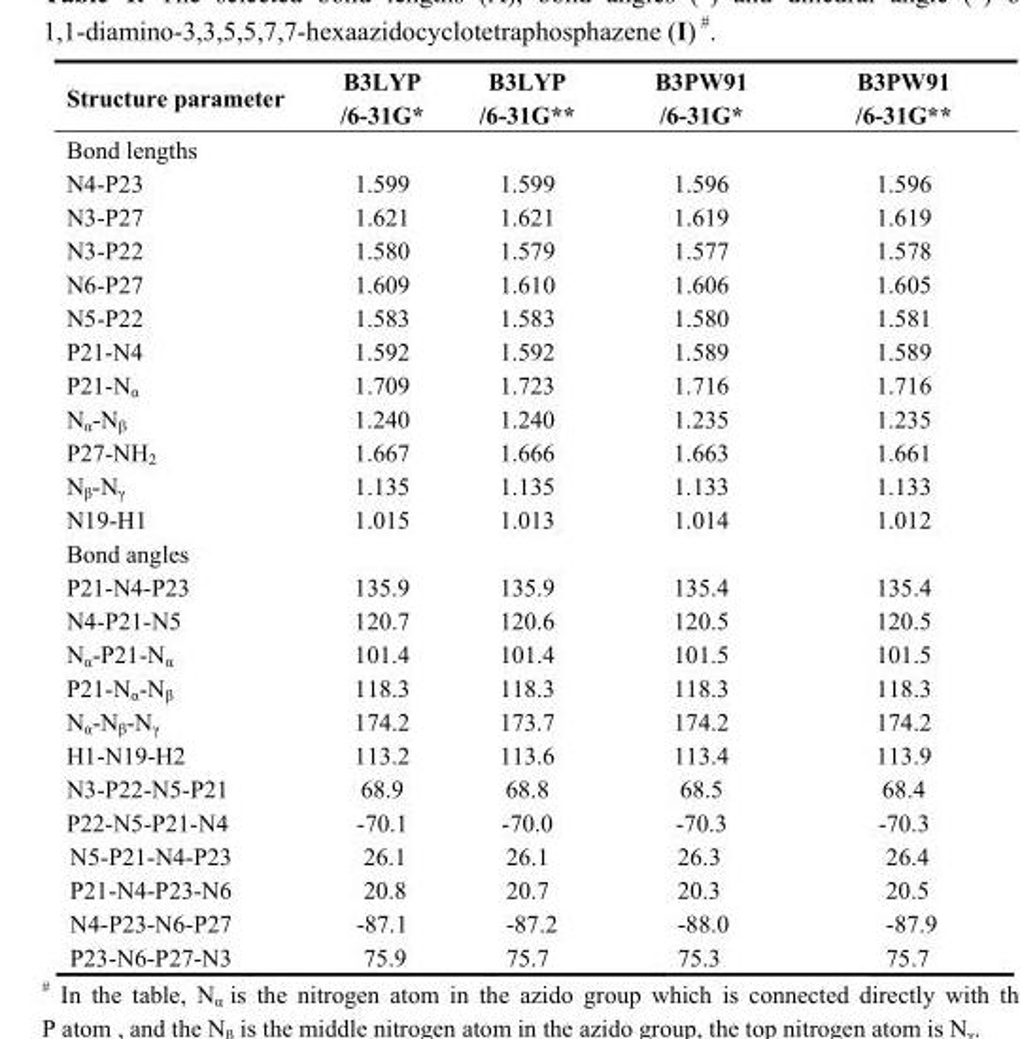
<table><thead><tr><td>Structure parameter</td><td>B3LYP /6-31G*</td><td>B3LYP /6-31G**</td><td>B3PW91 /6-31G*</td><td>B3PW91 /6-31G**</td></tr></thead><tbody><tr><td colspan="5">Bond lengths</td></tr><tr><td>N4-P23</td><td>1.599</td><td>1.599</td><td>1.596</td><td>1.596</td></tr><tr><td>N3-P27</td><td>1.621</td><td>1.621</td><td>1.619</td><td>1.619</td></tr><tr><td>N3-P22</td><td>1.580</td><td>1.579</td><td>1.577</td><td>1.578</td></tr><tr><td>N6-P27</td><td>1.609</td><td>1.610</td><td>1.606</td><td>1.605</td></tr><tr><td>N5-P22</td><td>1.583</td><td>1.583</td><td>1.580</td><td>1.581</td></tr><tr><td>P21-N4</td><td>1.592</td><td>1.592</td><td>1.589</td><td>1.589</td></tr><tr><td>P21-N<sub>α</sub></td><td>1.709</td><td>1.723</td><td>1.716</td><td>1.716</td></tr><tr><td>N<sub>α</sub>-N<sub>β</sub></td><td>1.240</td><td>1.240</td><td>1.235</td><td>1.235</td></tr><tr><td>P27-NH<sub>2</sub></td><td>1.667</td><td>1.666</td><td>1.663</td><td>1.661</td></tr><tr><td>N<sub>β</sub>-N<sub>γ</sub></td><td>1.135</td><td>1.135</td><td>1.133</td><td>1.133</td></tr><tr><td>N19-H1</td><td>1.015</td><td>1.013</td><td>1.014</td><td>1.012</td></tr><tr><td colspan="5">Bond angles</td></tr><tr><td>P21-N4-P23</td><td>135.9</td><td>135.9</td><td>135.4</td><td>135.4</td></tr><tr><td>N4-P21-N5</td><td>120.7</td><td>120.6</td><td>120.5</td><td>120.5</td></tr><tr><td>N<sub>α</sub>-P21-N<sub>α</sub></td><td>101.4</td><td>101.4</td><td>101.5</td><td>101.5</td></tr><tr><td>P21-N<sub>α</sub>-N<sub>β</sub></td><td>118.3</td><td>118.3</td><td>118.3</td><td>118.3</td></tr><tr><td>N<sub>α</sub>-N<sub>β</sub>-N<sub>γ</sub></td><td>174.2</td><td>173.7</td><td>174.2</td><td>174.2</td></tr><tr><td>H1-N19-H2</td><td>113.2</td><td>113.6</td><td>113.4</td><td>113.9</td></tr><tr><td>N3-P22-N5-P21</td><td>68.9</td><td>68.8</td><td>68.5</td><td>68.4</td></tr><tr><td>P22-N5-P21-N4</td><td>-70.1</td><td>-70.0</td><td>-70.3</td><td>-70.3</td></tr><tr><td>N5-P21-N4-P23</td><td>26.1</td><td>26.1</td><td>26.3</td><td>26.4</td></tr><tr><td>P21-N4-P23-N6</td><td>20.8</td><td>20.7</td><td>20.3</td><td>20.5</td></tr><tr><td>N4-P23-N6-P27</td><td>-87.1</td><td>-87.2</td><td>-88.0</td><td>-87.9</td></tr><tr><td>P23-N6-P27-N3</td><td>75.9</td><td>75.7</td><td>75.3</td><td>75.7</td></tr></tbody></table>